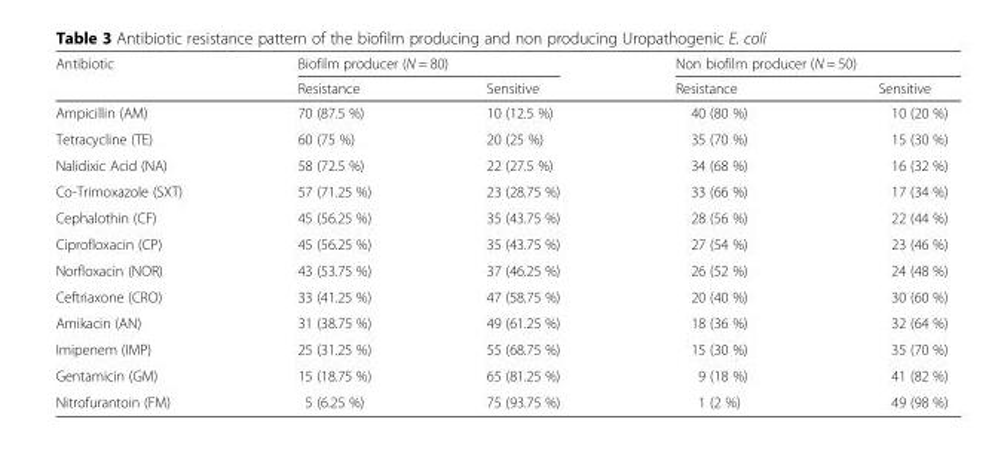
<table><thead><tr><td rowspan="2">Antibiotic</td><td colspan="2">Biofilm producer (N = 80)</td><td colspan="2">Non biofilm producer (N = 50)</td></tr><tr><td>Resistance</td><td>Sensitive</td><td>Resistance</td><td>Sensitive</td></tr></thead><tbody><tr><td>Ampicillin (AM)</td><td>70 (87.5 %)</td><td>10 (12.5 %)</td><td>40 (80 %)</td><td>10 (20 %)</td></tr><tr><td>Tetracycline (TE)</td><td>60 (75 %)</td><td>20 (25 %)</td><td>35 (70 %)</td><td>15 (30 %)</td></tr><tr><td>Nalidixic Acid (NA)</td><td>58 (72.5 %)</td><td>22 (27.5 %)</td><td>34 (68 %)</td><td>16 (32 %)</td></tr><tr><td>Co-Trimoxazole (SXT)</td><td>57 (71.25 %)</td><td>23 (28.75 %)</td><td>33 (66 %)</td><td>17 (34 %)</td></tr><tr><td>Cephalothin (CF)</td><td>45 (56.25 %)</td><td>35 (43.75 %)</td><td>28 (56 %)</td><td>22 (44 %)</td></tr><tr><td>Ciprofloxacin (CP)</td><td>45 (56.25 %)</td><td>35 (43.75 %)</td><td>27 (54 %)</td><td>23 (46 %)</td></tr><tr><td>Norfloxacin (NOR)</td><td>43 (53.75 %)</td><td>37 (46.25 %)</td><td>26 (52 %)</td><td>24 (48 %)</td></tr><tr><td>Ceftriaxone (CRO)</td><td>33 (41.25 %)</td><td>47 (58.75 %)</td><td>20 (40 %)</td><td>30 (60 %)</td></tr><tr><td>Amikacin (AN)</td><td>31 (38.75 %)</td><td>49 (61.25 %)</td><td>18 (36 %)</td><td>32 (64 %)</td></tr><tr><td>Imipenem (IMP)</td><td>25 (31.25 %)</td><td>55 (68.75 %)</td><td>15 (30 %)</td><td>35 (70 %)</td></tr><tr><td>Gentamicin (GM)</td><td>15 (18.75 %)</td><td>65 (81.25 %)</td><td>9 (18 %)</td><td>41 (82 %)</td></tr><tr><td>Nitrofurantoin (FM)</td><td>5 (6.25 %)</td><td>75 (93.75 %)</td><td>1 (2 %)</td><td>49 (98 %)</td></tr></tbody></table>